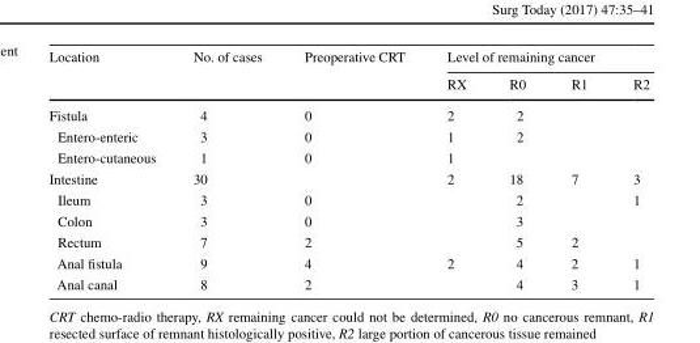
<table><thead><tr><td rowspan="2">Location</td><td rowspan="2">No. of cases</td><td rowspan="2">Preoperative CRT</td><td colspan="4">Level of remaining cancer</td></tr><tr><td>RX</td><td>R0</td><td>R1</td><td>R2</td></tr></thead><tbody><tr><td>Fistula</td><td>4</td><td>0</td><td>2</td><td>2</td><td></td><td></td></tr><tr><td>Entero-enteric</td><td>3</td><td>0</td><td>1</td><td>2</td><td></td><td></td></tr><tr><td>Entero-cutaneous</td><td>1</td><td>0</td><td>1</td><td></td><td></td><td></td></tr><tr><td>Intestine</td><td>30</td><td></td><td>2</td><td>18</td><td>7</td><td>3</td></tr><tr><td>Ileum</td><td>3</td><td>0</td><td></td><td>2</td><td></td><td>1</td></tr><tr><td>Colon</td><td>3</td><td>0</td><td></td><td>3</td><td></td><td></td></tr><tr><td>Rectum</td><td>7</td><td>2</td><td></td><td>5</td><td>2</td><td></td></tr><tr><td>Anal fistula</td><td>9</td><td>4</td><td>2</td><td>4</td><td>2</td><td>1</td></tr><tr><td>Anal canal</td><td>8</td><td>2</td><td></td><td>4</td><td>3</td><td>1</td></tr></tbody></table>